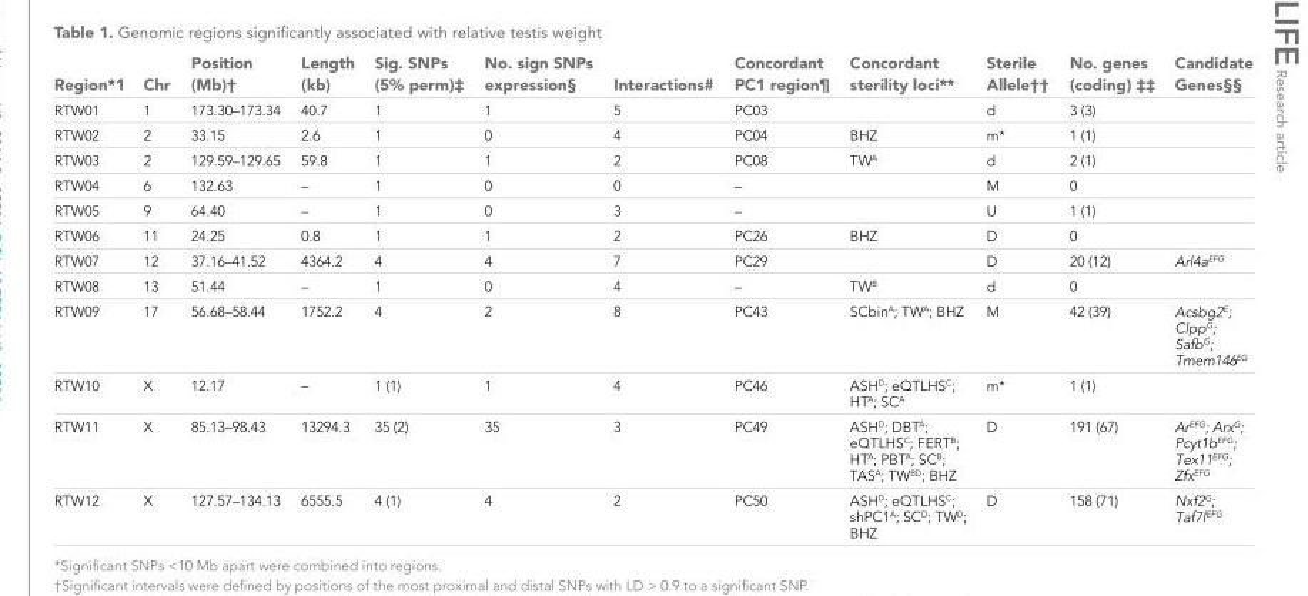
<table><thead><tr><td>Region*1</td><td>Chr</td><td>Position (Mb)†</td><td>Length (kb)</td><td>Sig. SNPs (5% perm)‡</td><td>No. sign SNPs expression§</td><td>Interactions#</td><td>Concordant PC1 region¶</td><td>Concordant sterility loci**</td><td>Sterile Allele††</td><td>No. genes (coding) ‡‡</td><td>Candidate Genes§§</td></tr></thead><tbody><tr><td>RTW01</td><td>1</td><td>173.30–173.34</td><td>40.7</td><td>1</td><td>1</td><td>5</td><td>PC03</td><td></td><td>d</td><td>3 (3)</td><td></td></tr><tr><td>RTW02</td><td>2</td><td>33.15</td><td>2.6</td><td>1</td><td>0</td><td>4</td><td>PC04</td><td>BHZ</td><td>m*</td><td>1 (1)</td><td></td></tr><tr><td>RTW03</td><td>2</td><td>129.59–129.65</td><td>59.8</td><td>1</td><td>1</td><td>2</td><td>PC08</td><td>TW<sup>A</sup></td><td>d</td><td>2 (1)</td><td></td></tr><tr><td>RTW04</td><td>6</td><td>132.63</td><td>–</td><td>1</td><td>0</td><td>0</td><td>–</td><td></td><td>M</td><td>0</td><td></td></tr><tr><td>RTW05</td><td>9</td><td>64.40</td><td>–</td><td>1</td><td>0</td><td>3</td><td>–</td><td></td><td>U</td><td>1 (1)</td><td></td></tr><tr><td>RTW06</td><td>11</td><td>24.25</td><td>0.8</td><td>1</td><td>1</td><td>2</td><td>PC26</td><td>BHZ</td><td>D</td><td>0</td><td></td></tr><tr><td>RTW07</td><td>12</td><td>37.16–41.52</td><td>4364.2</td><td>4</td><td>4</td><td>7</td><td>PC29</td><td></td><td>D</td><td>20 (12)</td><td>Arl4a<sup>EFG</sup></td></tr><tr><td>RTW08</td><td>13</td><td>51.44</td><td>–</td><td>1</td><td>0</td><td>4</td><td>–</td><td>TW<sup>B</sup></td><td>d</td><td>0</td><td></td></tr><tr><td>RTW09</td><td>17</td><td>56.68–58.44</td><td>1752.2</td><td>4</td><td>2</td><td>8</td><td>PC43</td><td>SCbin<sup>A</sup>; TW<sup>A</sup>; BHZ</td><td>M</td><td>42 (39)</td><td>Acsbg2<sup>E</sup>; Clpp<sup>G</sup>; Safb<sup>G</sup>; Tmem146<sup>EG</sup></td></tr><tr><td>RTW10</td><td>X</td><td>12.17</td><td>–</td><td>1 (1)</td><td>1</td><td>4</td><td>PC46</td><td>ASH<sup>D</sup>; eQTLHS<sup>C</sup>; HT<sup>A</sup>; SC<sup>A</sup></td><td>m*</td><td>1 (1)</td><td></td></tr><tr><td>RTW11</td><td>X</td><td>85.13–98.43</td><td>13294.3</td><td>35 (2)</td><td>35</td><td>3</td><td>PC49</td><td>ASH<sup>D</sup>; DBT<sup>A</sup>; eQTLHS<sup>C</sup>; FERT<sup>B</sup>; HT<sup>A</sup>; PBT<sup>A</sup>; SC<sup>B</sup>; TAS<sup>A</sup>; TW<sup>BD</sup>; BHZ</td><td>D</td><td>191 (67)</td><td>Ar<sup>EFG</sup>; Arx<sup>G</sup>; Pcyt1b<sup>EFG</sup>; Tex11<sup>EFG</sup>; Zfx<sup>EFG</sup></td></tr><tr><td>RTW12</td><td>X</td><td>127.57–134.13</td><td>6555.5</td><td>4 (1)</td><td>4</td><td>2</td><td>PC50</td><td>ASH<sup>D</sup>; eQTLHS<sup>C</sup>; shPC1<sup>A</sup>; SC<sup>D</sup>; TW<sup>D</sup>; BHZ</td><td>D</td><td>158 (71)</td><td>Nxf2<sup>G</sup>; Taf7l<sup>EFG</sup></td></tr></tbody></table>